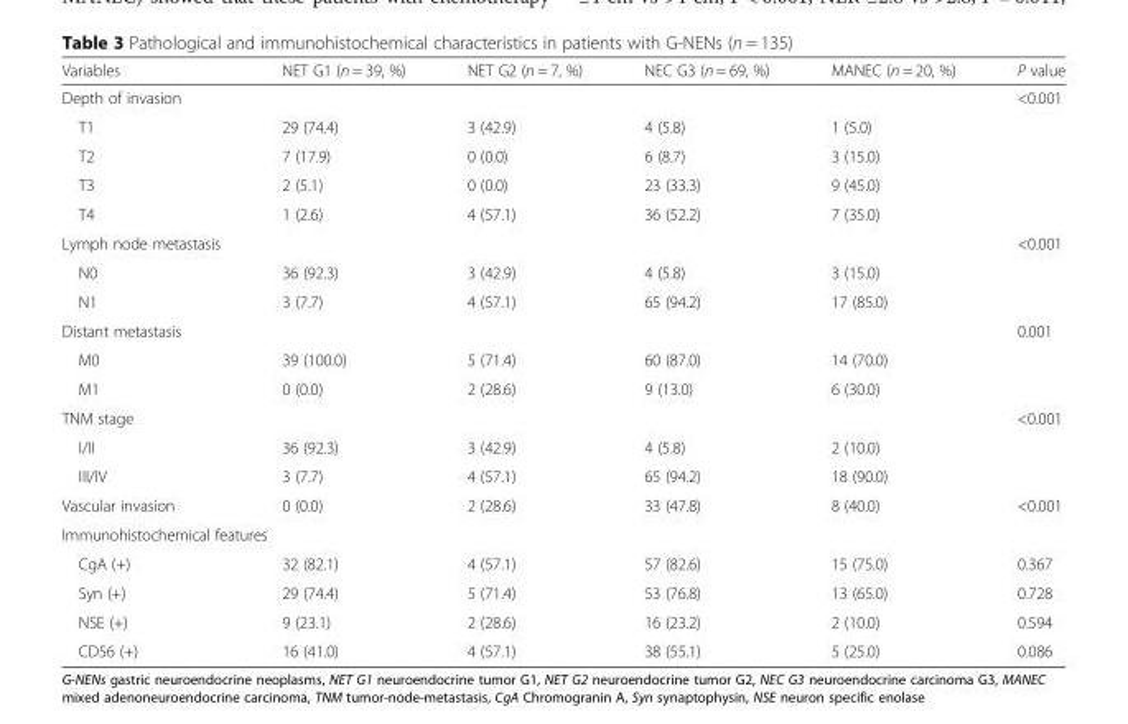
<table><thead><tr><td>Variables</td><td>NET G1 (n = 39, %)</td><td>NET G2 (n = 7, %)</td><td>NEC G3 (n = 69, %)</td><td>MANEC (n = 20, %)</td><td>P value</td></tr></thead><tbody><tr><td>Depth of invasion</td><td></td><td></td><td></td><td></td><td>&lt;0.001</td></tr><tr><td>T1</td><td>29 (74.4)</td><td>3 (42.9)</td><td>4 (5.8)</td><td>1 (5.0)</td><td></td></tr><tr><td>T2</td><td>7 (17.9)</td><td>0 (0.0)</td><td>6 (8.7)</td><td>3 (15.0)</td><td></td></tr><tr><td>T3</td><td>2 (5.1)</td><td>0 (0.0)</td><td>23 (33.3)</td><td>9 (45.0)</td><td></td></tr><tr><td>T4</td><td>1 (2.6)</td><td>4 (57.1)</td><td>36 (52.2)</td><td>7 (35.0)</td><td></td></tr><tr><td>Lymph node metastasis</td><td></td><td></td><td></td><td></td><td>&lt;0.001</td></tr><tr><td>N0</td><td>36 (92.3)</td><td>3 (42.9)</td><td>4 (5.8)</td><td>3 (15.0)</td><td></td></tr><tr><td>N1</td><td>3 (7.7)</td><td>4 (57.1)</td><td>65 (94.2)</td><td>17 (85.0)</td><td></td></tr><tr><td>Distant metastasis</td><td></td><td></td><td></td><td></td><td>0.001</td></tr><tr><td>M0</td><td>39 (100.0)</td><td>5 (71.4)</td><td>60 (87.0)</td><td>14 (70.0)</td><td></td></tr><tr><td>M1</td><td>0 (0.0)</td><td>2 (28.6)</td><td>9 (13.0)</td><td>6 (30.0)</td><td></td></tr><tr><td>TNM stage</td><td></td><td></td><td></td><td></td><td>&lt;0.001</td></tr><tr><td>I/II</td><td>36 (92.3)</td><td>3 (42.9)</td><td>4 (5.8)</td><td>2 (10.0)</td><td></td></tr><tr><td>III/IV</td><td>3 (7.7)</td><td>4 (57.1)</td><td>65 (94.2)</td><td>18 (90.0)</td><td></td></tr><tr><td>Vascular invasion</td><td>0 (0.0)</td><td>2 (28.6)</td><td>33 (47.8)</td><td>8 (40.0)</td><td>&lt;0.001</td></tr><tr><td colspan="6">Immunohistochemical features</td></tr><tr><td>CgA (+)</td><td>32 (82.1)</td><td>4 (57.1)</td><td>57 (82.6)</td><td>15 (75.0)</td><td>0.367</td></tr><tr><td>Syn (+)</td><td>29 (74.4)</td><td>5 (71.4)</td><td>53 (76.8)</td><td>13 (65.0)</td><td>0.728</td></tr><tr><td>NSE (+)</td><td>9 (23.1)</td><td>2 (28.6)</td><td>16 (23.2)</td><td>2 (10.0)</td><td>0.594</td></tr><tr><td>CD56 (+)</td><td>16 (41.0)</td><td>4 (57.1)</td><td>38 (55.1)</td><td>5 (25.0)</td><td>0.086</td></tr></tbody></table>